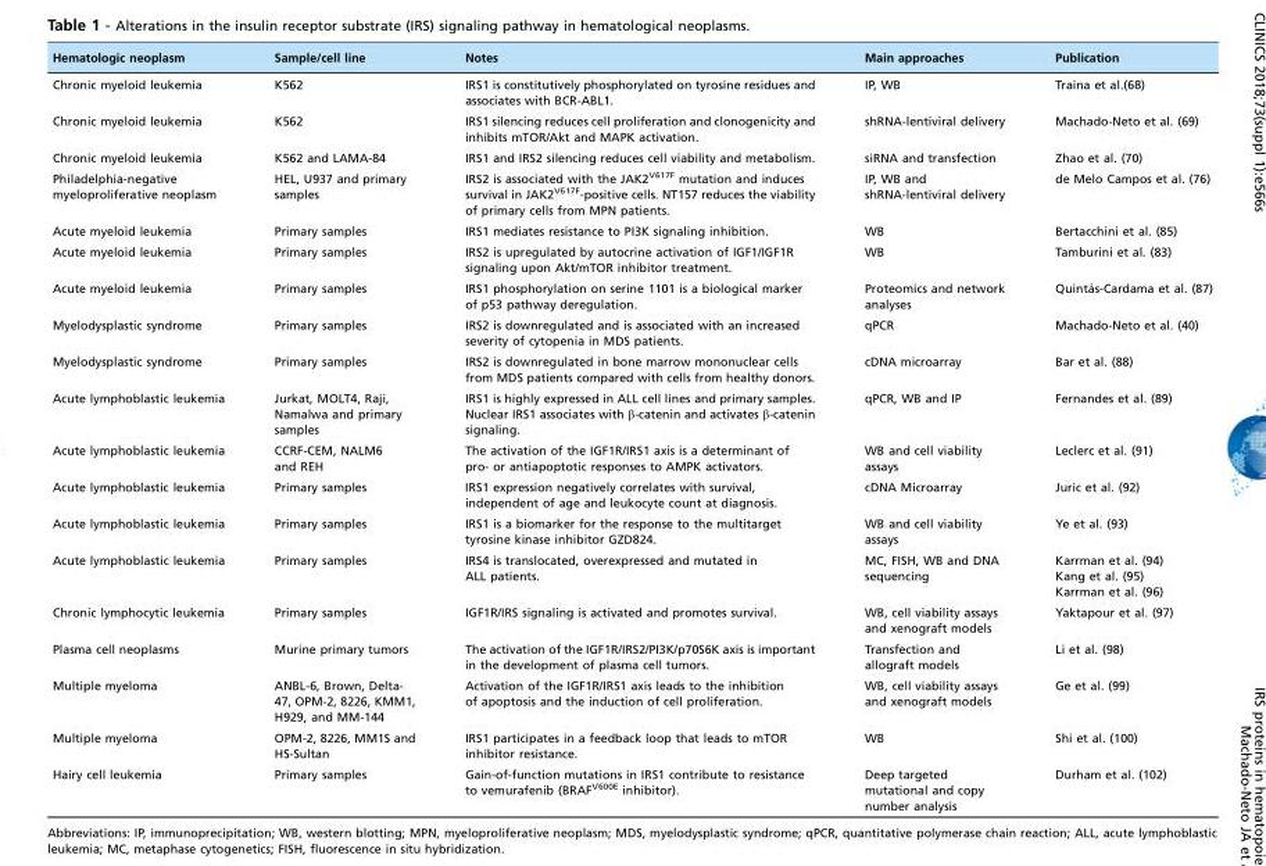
<table><thead><tr><td>Hematologic neoplasm</td><td>Sample/cell line</td><td>Notes</td><td>Main approaches</td><td>Publication</td></tr></thead><tbody><tr><td>Chronic myeloid leukemia</td><td>K562</td><td>IRS1 is constitutively phosphorylated on tyrosine residues and associates with BCR-ABL1.</td><td>IP, WB</td><td>Traina et al.(68)</td></tr><tr><td>Chronic myeloid leukemia</td><td>K562</td><td>IRS1 silencing reduces cell proliferation and clonogenicity and inhibits mTOR/Akt and MAPK activation.</td><td>shRNA-lentiviral delivery</td><td>Machado-Neto et al. (69)</td></tr><tr><td>Chronic myeloid leukemia</td><td>K562 and LAMA-84</td><td>IRS1 and IRS2 silencing reduces cell viability and metabolism.</td><td>siRNA and transfection</td><td>Zhao et al. (70)</td></tr><tr><td>Philadelphia-negative myeloproliferative neoplasm</td><td>HEL, U937 and primary samples</td><td>IRS2 is associated with the JAK2<sup>V617F</sup> mutation and induces survival in JAK2<sup>V617F</sup>-positive cells. NT157 reduces the viability of primary cells from MPN patients.</td><td>IP, WB and shRNA-lentiviral delivery</td><td>de Melo Campos et al. (76)</td></tr><tr><td>Acute myeloid leukemia</td><td>Primary samples</td><td>IRS1 mediates resistance to PI3K signaling inhibition.</td><td>WB</td><td>Bertacchini et al. (85)</td></tr><tr><td>Acute myeloid leukemia</td><td>Primary samples</td><td>IRS2 is upregulated by autocrine activation of IGF1/IGF1R signaling upon Akt/mTOR inhibitor treatment.</td><td>WB</td><td>Tamburini et al. (83)</td></tr><tr><td>Acute myeloid leukemia</td><td>Primary samples</td><td>IRS1 phosphorylation on serine 1101 is a biological marker of p53 pathway deregulation.</td><td>Proteomics and network analyses</td><td>Quinta´s-Cardama et al. (87)</td></tr><tr><td>Myelodysplastic syndrome</td><td>Primary samples</td><td>IRS2 is downregulated and is associated with an increased severity of cytopenia in MDS patients.</td><td>qPCR</td><td>Machado-Neto et al. (40)</td></tr><tr><td>Myelodysplastic syndrome</td><td>Primary samples</td><td>IRS2 is downregulated in bone marrow mononuclear cells from MDS patients compared with cells from healthy donors.</td><td>cDNA microarray</td><td>Bar et al. (88)</td></tr><tr><td>Acute lymphoblastic leukemia</td><td>Jurkat, MOLT4, Raji, Namalwa and primary samples</td><td>IRS1 is highly expressed in ALL cell lines and primary samples. Nuclear IRS1 associates with β-catenin and activates β-catenin signaling.</td><td>qPCR, WB and IP</td><td>Fernandes et al. (89)</td></tr><tr><td>Acute lymphoblastic leukemia</td><td>CCRF-CEM, NALM6 and REH</td><td>The activation of the IGF1R/IRS1 axis is a determinant of pro- or antiapoptotic responses to AMPK activators.</td><td>WB and cell viability assays</td><td>Leclerc et al. (91)</td></tr><tr><td>Acute lymphoblastic leukemia</td><td>Primary samples</td><td>IRS1 expression negatively correlates with survival, independent of age and leukocyte count at diagnosis.</td><td>cDNA Microarray</td><td>Juric et al. (92)</td></tr><tr><td>Acute lymphoblastic leukemia</td><td>Primary samples</td><td>IRS1 is a biomarker for the response to the multitarget tyrosine kinase inhibitor GZD824.</td><td>WB and cell viability assays</td><td>Ye et al. (93)</td></tr><tr><td>Acute lymphoblastic leukemia</td><td>Primary samples</td><td>IRS4 is translocated, overexpressed and mutated in ALL patients.</td><td>MC, FISH, WB and DNA sequencing</td><td>Karrman et al. (94) Kang et al. (95) Karrman et al. (96)</td></tr><tr><td>Chronic lymphocytic leukemia</td><td>Primary samples</td><td>IGF1R/IRS signaling is activated and promotes survival.</td><td>WB, cell viability assays and xenograft models</td><td>Yaktapour et al. (97)</td></tr><tr><td>Plasma cell neoplasms</td><td>Murine primary tumors</td><td>The activation of the IGF1R/IRS2/PI3K/p70S6K axis is important in the development of plasma cell tumors.</td><td>Transfection and allograft models</td><td>Li et al. (98)</td></tr><tr><td>Multiple myeloma</td><td>ANBL-6, Brown, Delta- 47, OPM-2, 8226, KMM1, H929, and MM-144</td><td>Activation of the IGF1R/IRS1 axis leads to the inhibition of apoptosis and the induction of cell proliferation.</td><td>WB, cell viability assays and xenograft models</td><td>Ge et al. (99)</td></tr><tr><td>Multiple myeloma</td><td>OPM-2, 8226, MM1S and HS-Sultan</td><td>IRS1 participates in a feedback loop that leads to mTOR inhibitor resistance.</td><td>WB</td><td>Shi et al. (100)</td></tr><tr><td>Hairy cell leukemia</td><td>Primary samples</td><td>Gain-of-function mutations in IRS1 contribute to resistance to vemurafenib (BRAF<sup>V600E</sup> inhibitor).</td><td>Deep targeted mutational and copy number analysis</td><td>Durham et al. (102)</td></tr></tbody></table>